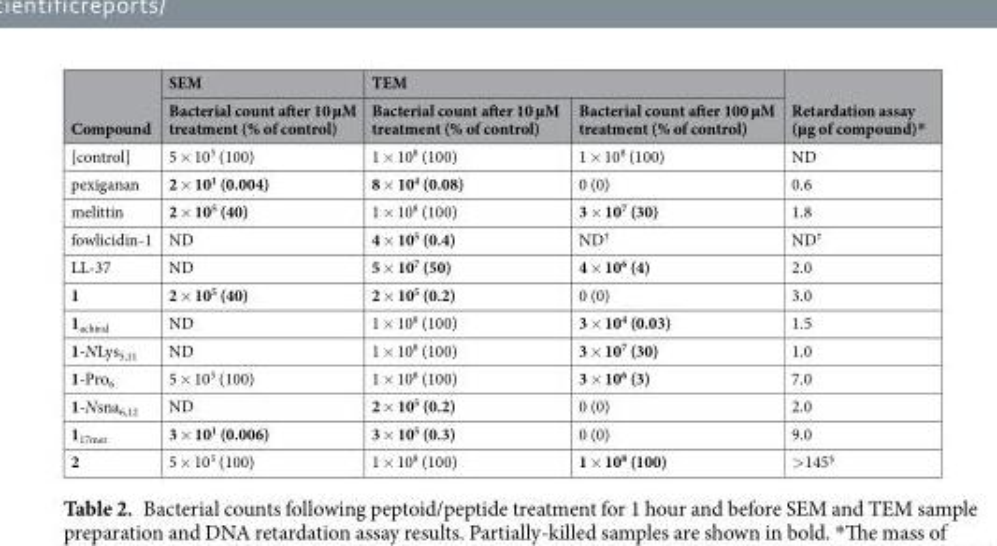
<table><thead><tr><td rowspan="2">Compound</td><td rowspan="2">SEM Bacterial count after 10 µM treatment (% of control)</td><td colspan="2">TEM</td><td rowspan="2">Retardation assay (µg of compound)*</td></tr><tr><td>Bacterial count after 10 µM treatment (% of control)</td><td>Bacterial count after 100 µM treatment (% of control)</td></tr></thead><tbody><tr><td>[control]</td><td>5 × 10<sup>5</sup> (100)</td><td>1 × 10<sup>8</sup> (100)</td><td>1 × 10<sup>8</sup> (100)</td><td>ND</td></tr><tr><td>pexiganan</td><td>2 × 10<sup>1</sup> (0.004)</td><td>8 × 10<sup>4</sup> (0.08)</td><td>0 (0)</td><td>0.6</td></tr><tr><td>melittin</td><td>2 × 10<sup>5</sup> (40)</td><td>1 × 10<sup>8</sup> (100)</td><td>3 × 10<sup>7</sup> (30)</td><td>1.8</td></tr><tr><td>fowlicidin-1</td><td>ND</td><td>4 × 10<sup>5</sup> (0.4)</td><td>ND<sup>†</sup></td><td>ND<sup>†</sup></td></tr><tr><td>LL-37</td><td>ND</td><td>5 × 10<sup>7</sup> (50)</td><td>4 × 10<sup>6</sup> (4)</td><td>2.0</td></tr><tr><td>1</td><td>2 × 10<sup>5</sup> (40)</td><td>2 × 10<sup>5</sup> (0.2)</td><td>0 (0)</td><td>3.0</td></tr><tr><td>1<sub>achiral</sub></td><td>ND</td><td>1 × 10<sup>8</sup> (100)</td><td>3 × 10<sup>4</sup> (0.03)</td><td>1.5</td></tr><tr><td>1-NLys<sub>5,11</sub></td><td>ND</td><td>1 × 10<sup>8</sup> (100)</td><td>3 × 10<sup>7</sup> (30)</td><td>1.0</td></tr><tr><td>1-Pro<sub>6</sub></td><td>5 × 10<sup>5</sup> (100)</td><td>1 × 10<sup>8</sup> (100)</td><td>3 × 10<sup>6</sup> (3)</td><td>7.0</td></tr><tr><td>1-Nsna<sub>6,12</sub></td><td>ND</td><td>2 × 10<sup>5</sup> (0.2)</td><td>0 (0)</td><td>2.0</td></tr><tr><td>1<sub>17mer</sub></td><td>3 × 10<sup>1</sup> (0.006)</td><td>3 × 10<sup>5</sup> (0.3)</td><td>0 (0)</td><td>9.0</td></tr><tr><td>2</td><td>5 × 10<sup>5</sup> (100)</td><td>1 × 10<sup>8</sup> (100)</td><td>1 × 10<sup>8</sup> (100)</td><td>&gt;145<sup>§</sup></td></tr></tbody></table>